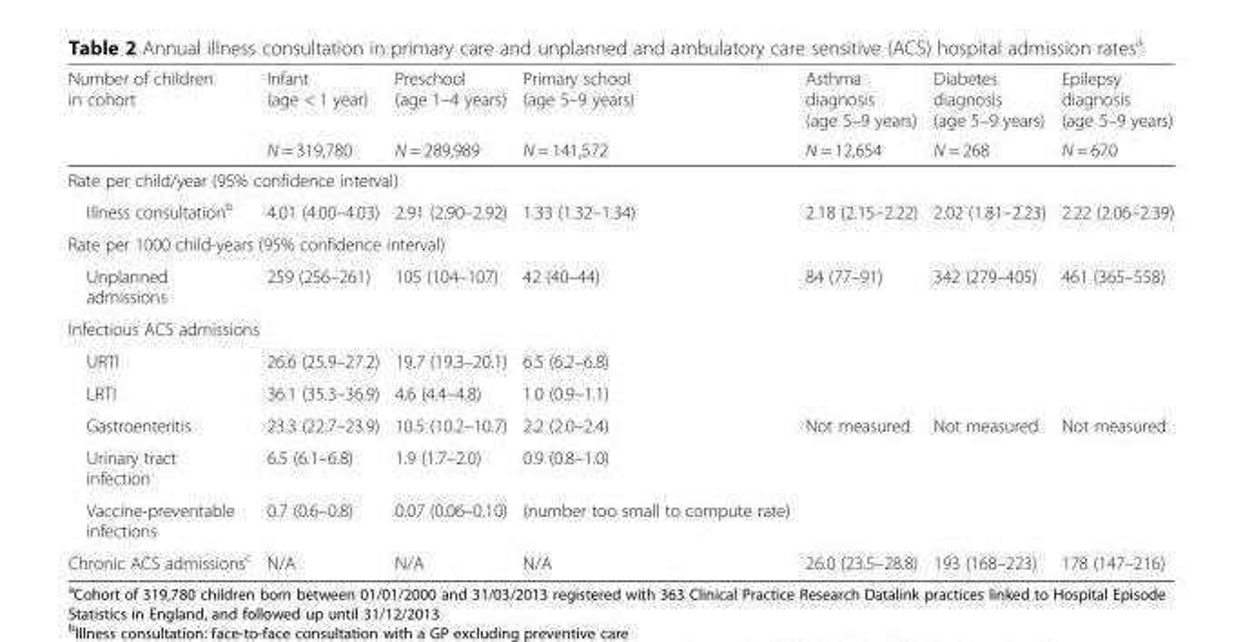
<table><thead><tr><td rowspan="2">Number of children in cohort</td><td rowspan="2">Infant (age &lt; 1 year) N = 319,780</td><td rowspan="2">Preschool (age 1–4 years) N = 289,989</td><td rowspan="2">Primary school (age 5–9 years) N = 141,572</td><td rowspan="2">Asthma diagnosis (age 5–9 years) N = 12,654</td><td rowspan="2">Diabetes diagnosis (age 5–9 years) N = 268</td><td rowspan="2">Epilepsy diagnosis (age 5–9 years) N = 670</td></tr><tr></tr></thead><tbody><tr><td colspan="7">Rate per child/year (95% confidence interval)</td></tr><tr><td>Illness consultation<sup>b</sup></td><td>4.01 (4.00–4.03)</td><td>2.91 (2.90–2.92)</td><td>1.33 (1.32–1.34)</td><td>2.18 (2.15–2.22)</td><td>2.02 (1.81–2.23)</td><td>2.22 (2.06–2.39)</td></tr><tr><td colspan="7">Rate per 1000 child-years (95% confidence interval)</td></tr><tr><td>Unplanned admissions</td><td>259 (256–261)</td><td>105 (104–107)</td><td>42 (40–44)</td><td>84 (77–91)</td><td>342 (279–405)</td><td>461 (365–558)</td></tr><tr><td colspan="7">Infectious ACS admissions</td></tr><tr><td>URTI</td><td>26.6 (25.9–27.2)</td><td>19.7 (19.3–20.1)</td><td>6.5 (6.2–6.8)</td><td></td><td></td><td></td></tr><tr><td>LRTI</td><td>36.1 (35.3–36.9)</td><td>4.6 (4.4–4.8)</td><td>1.0 (0.9–1.1)</td><td></td><td></td><td></td></tr><tr><td>Gastroenteritis</td><td>23.3 (22.7–23.9)</td><td>10.5 (10.2–10.7)</td><td>2.2 (2.0–2.4)</td><td>Not measured</td><td>Not measured</td><td>Not measured</td></tr><tr><td>Urinary tract infection</td><td>6.5 (6.1–6.8)</td><td>1.9 (1.7–2.0)</td><td>0.9 (0.8–1.0)</td><td></td><td></td><td></td></tr><tr><td>Vaccine-preventable infections</td><td>0.7 (0.6–0.8)</td><td>0.07 (0.06–0.10)</td><td>(number too small to compute rate)</td><td></td><td></td><td></td></tr><tr><td>Chronic ACS admissions<sup>c</sup></td><td>N/A</td><td>N/A</td><td>N/A</td><td>26.0 (23.5–28.8)</td><td>193 (168–223)</td><td>178 (147–216)</td></tr></tbody></table>